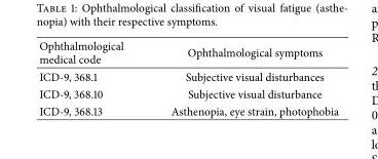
<table><thead><tr><td>Ophthalmological medical code</td><td>Ophthalmological symptoms</td></tr></thead><tbody><tr><td>ICD-9, 368.1</td><td>Subjective visual disturbances</td></tr><tr><td>ICD-9, 368.10</td><td>Subjective visual disturbance</td></tr><tr><td>ICD-9, 368.13</td><td>Asthenopia, eye strain, photophobia</td></tr></tbody></table>